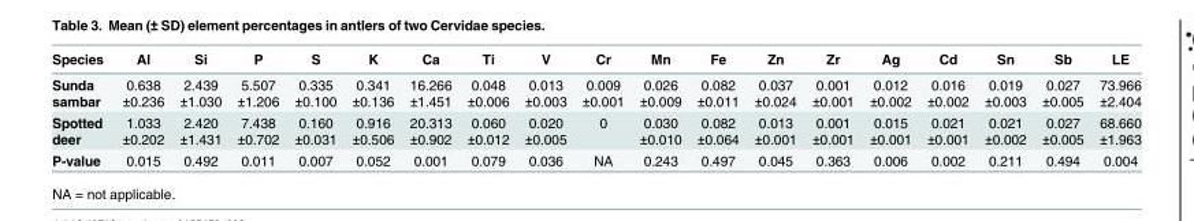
<table><thead><tr><td>Species</td><td>Al</td><td>Si</td><td>P</td><td>S</td><td>K</td><td>Ca</td><td>Ti</td><td>V</td><td>Cr</td><td>Mn</td><td>Fe</td><td>Zn</td><td>Zr</td><td>Ag</td><td>Cd</td><td>Sn</td><td>Sb</td><td>LE</td></tr></thead><tbody><tr><td>Sunda sambar</td><td>0.638 ±0.236</td><td>2.439 ±1.030</td><td>5.507 ±1.206</td><td>0.335 ±0.100</td><td>0.341 ±0.136</td><td>16.266 ±1.451</td><td>0.048 ±0.006</td><td>0.013 ±0.003</td><td>0.009 ±0.001</td><td>0.026 ±0.009</td><td>0.082 ±0.011</td><td>0.037 ±0.024</td><td>0.001 ±0.001</td><td>0.012 ±0.002</td><td>0.016 ±0.002</td><td>0.019 ±0.003</td><td>0.027 ±0.005</td><td>73.966 ±2.404</td></tr><tr><td>Spotted deer</td><td>1.033 ±0.202</td><td>2.420 ±1.431</td><td>7.438 ±0.702</td><td>0.160 ±0.031</td><td>0.916 ±0.506</td><td>20.313 ±0.902</td><td>0.060 ±0.012</td><td>0.020 ±0.005</td><td>0</td><td>0.030 ±0.010</td><td>0.082 ±0.064</td><td>0.013 ±0.001</td><td>0.001 ±0.001</td><td>0.015 ±0.001</td><td>0.021 ±0.001</td><td>0.021 ±0.002</td><td>0.027 ±0.005</td><td>68.660 ±1.963</td></tr><tr><td>P-value</td><td>0.015</td><td>0.492</td><td>0.011</td><td>0.007</td><td>0.052</td><td>0.001</td><td>0.079</td><td>0.036</td><td>NA</td><td>0.243</td><td>0.497</td><td>0.045</td><td>0.363</td><td>0.006</td><td>0.002</td><td>0.211</td><td>0.494</td><td>0.004</td></tr></tbody></table>